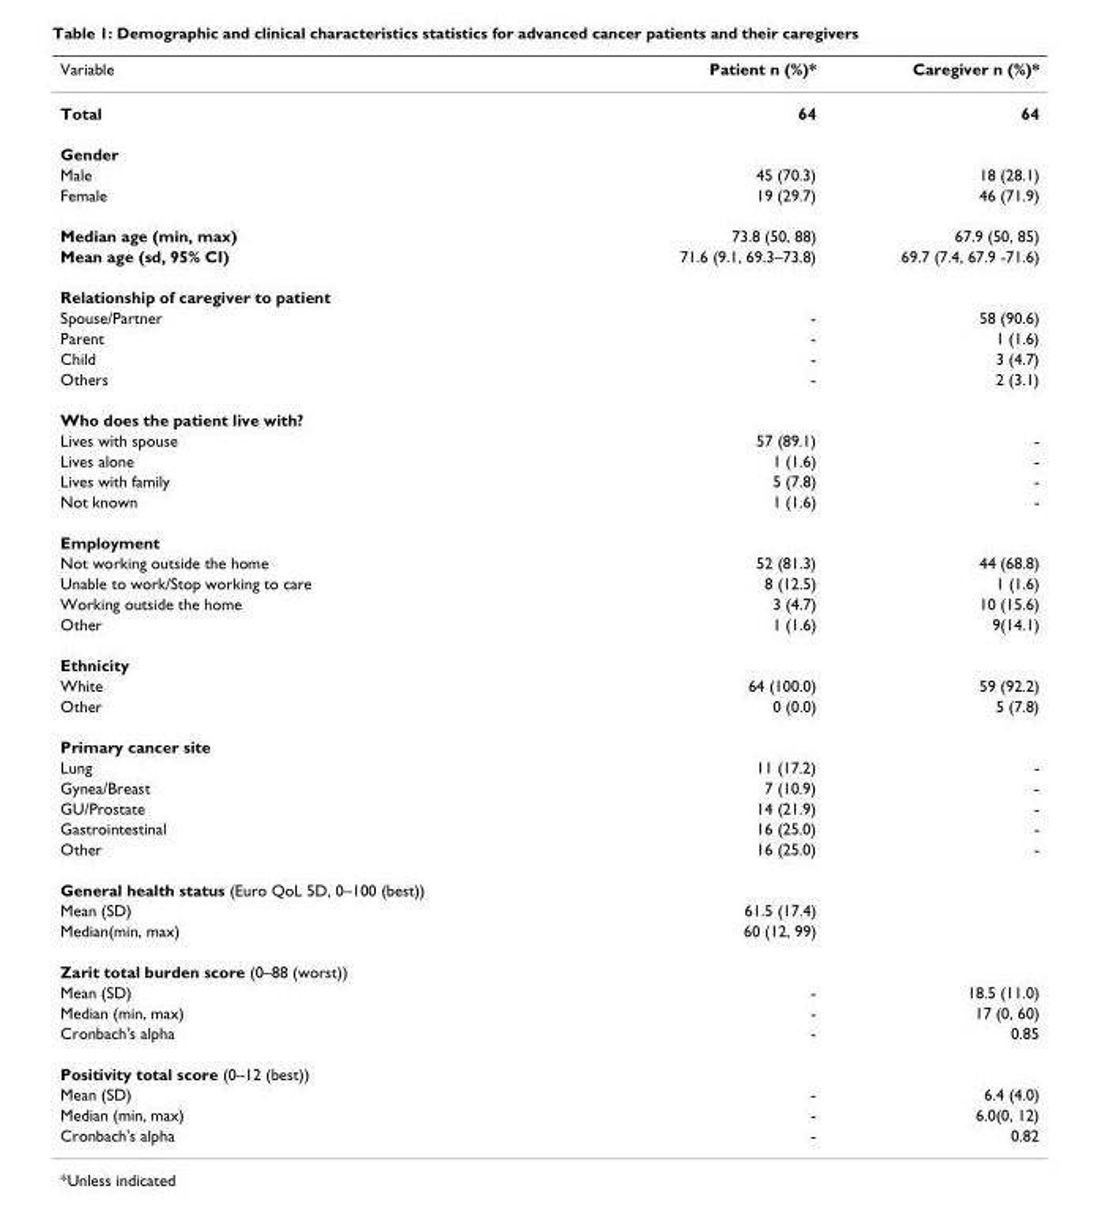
<table><thead><tr><td>Variable</td><td>Patient n (%)*</td><td>Caregiver n (%)*</td></tr></thead><tbody><tr><td>Total</td><td>64</td><td>64</td></tr><tr><td colspan="3">Gender</td></tr><tr><td>Male</td><td>45 (70.3)</td><td>18 (28.1)</td></tr><tr><td>Female</td><td>19 (29.7)</td><td>46 (71.9)</td></tr><tr><td>Median age (min, max)</td><td>73.8 (50, 88)</td><td>67.9 (50, 85)</td></tr><tr><td>Mean age (sd, 95% CI)</td><td>71.6 (9.1, 69.3–73.8)</td><td>69.7 (7.4, 67.9 -71.6)</td></tr><tr><td colspan="3">Relationship of caregiver to patient</td></tr><tr><td>Spouse/Partner</td><td>-</td><td>58 (90.6)</td></tr><tr><td>Parent</td><td>-</td><td>1 (1.6)</td></tr><tr><td>Child</td><td>-</td><td>3 (4.7)</td></tr><tr><td>Others</td><td>-</td><td>2 (3.1)</td></tr><tr><td colspan="3">Who does the patient live with?</td></tr><tr><td>Lives with spouse</td><td>57 (89.1)</td><td>-</td></tr><tr><td>Lives alone</td><td>1 (1.6)</td><td>-</td></tr><tr><td>Lives with family</td><td>5 (7.8)</td><td>-</td></tr><tr><td>Not known</td><td>1 (1.6)</td><td>-</td></tr><tr><td colspan="3">Employment</td></tr><tr><td>Not working outside the home</td><td>52 (81.3)</td><td>44 (68.8)</td></tr><tr><td>Unable to work/Stop working to care</td><td>8 (12.5)</td><td>1 (1.6)</td></tr><tr><td>Working outside the home</td><td>3 (4.7)</td><td>10 (15.6)</td></tr><tr><td>Other</td><td>1 (1.6)</td><td>9(14.1)</td></tr><tr><td colspan="3">Ethnicity</td></tr><tr><td>White</td><td>64 (100.0)</td><td>59 (92.2)</td></tr><tr><td>Other</td><td>0 (0.0)</td><td>5 (7.8)</td></tr><tr><td colspan="3">Primary cancer site</td></tr><tr><td>Lung</td><td>11 (17.2)</td><td>-</td></tr><tr><td>Gynea/Breast</td><td>7 (10.9)</td><td>-</td></tr><tr><td>GU/Prostate</td><td>14 (21.9)</td><td>-</td></tr><tr><td>Gastrointestinal</td><td>16 (25.0)</td><td>-</td></tr><tr><td>Other</td><td>16 (25.0)</td><td>-</td></tr><tr><td colspan="3">General health status (Euro QoL 5D, 0–100 (best))</td></tr><tr><td>Mean (SD)</td><td>61.5 (17.4)</td><td></td></tr><tr><td>Median(min, max)</td><td>60 (12, 99)</td><td></td></tr><tr><td colspan="3">Zarit total burden score (0–88 (worst))</td></tr><tr><td>Mean (SD)</td><td>-</td><td>18.5 (11.0)</td></tr><tr><td>Median (min, max)</td><td>-</td><td>17 (0, 60)</td></tr><tr><td>Cronbach&#x27;s alpha</td><td>-</td><td>0.85</td></tr><tr><td colspan="3">Positivity total score (0–12 (best))</td></tr><tr><td>Mean (SD)</td><td>-</td><td>6.4 (4.0)</td></tr><tr><td>Median (min, max)</td><td>-</td><td>6.0(0, 12)</td></tr><tr><td>Cronbach&#x27;s alpha</td><td>-</td><td>0.82</td></tr></tbody></table>